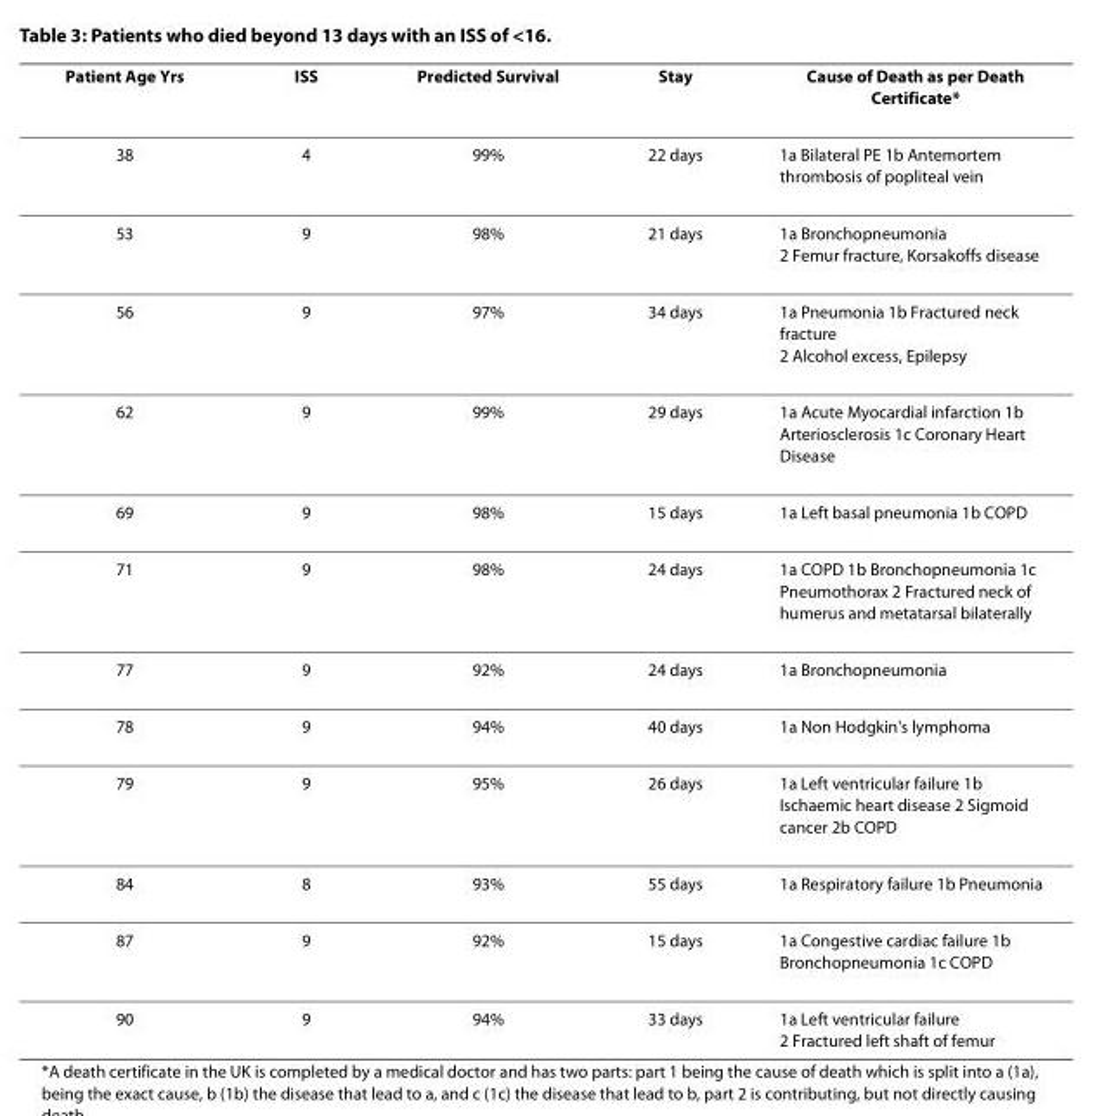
<table><thead><tr><td>Patient Age Yrs</td><td>ISS</td><td>Predicted Survival</td><td>Stay</td><td>Cause of Death as per Death Certificate*</td></tr></thead><tbody><tr><td>38</td><td>4</td><td>99%</td><td>22 days</td><td>1a Bilateral PE 1b Antemortem thrombosis of popliteal vein</td></tr><tr><td>53</td><td>9</td><td>98%</td><td>21 days</td><td>1a Bronchopneumonia 2 Femur fracture, Korsakoffs disease</td></tr><tr><td>56</td><td>9</td><td>97%</td><td>34 days</td><td>1a Pneumonia 1b Fractured neck fracture 2 Alcohol excess, Epilepsy</td></tr><tr><td>62</td><td>9</td><td>99%</td><td>29 days</td><td>1a Acute Myocardial infarction 1b Arteriosclerosis 1c Coronary Heart Disease</td></tr><tr><td>69</td><td>9</td><td>98%</td><td>15 days</td><td>1a Left basal pneumonia 1b COPD</td></tr><tr><td>71</td><td>9</td><td>98%</td><td>24 days</td><td>1a COPD 1b Bronchopneumonia 1c Pneumothorax 2 Fractured neck of humerus and metatarsal bilaterally</td></tr><tr><td>77</td><td>9</td><td>92%</td><td>24 days</td><td>1a Bronchopneumonia</td></tr><tr><td>78</td><td>9</td><td>94%</td><td>40 days</td><td>1a Non Hodgkin&#x27;s lymphoma</td></tr><tr><td>79</td><td>9</td><td>95%</td><td>26 days</td><td>1a Left ventricular failure 1b Ischaemic heart disease 2 Sigmoid cancer 2b COPD</td></tr><tr><td>84</td><td>8</td><td>93%</td><td>55 days</td><td>1a Respiratory failure 1b Pneumonia</td></tr><tr><td>87</td><td>9</td><td>92%</td><td>15 days</td><td>1a Congestive cardiac failure 1b Bronchopneumonia 1c COPD</td></tr><tr><td>90</td><td>9</td><td>94%</td><td>33 days</td><td>1a Left ventricular failure 2 Fractured left shaft of femur</td></tr></tbody></table>